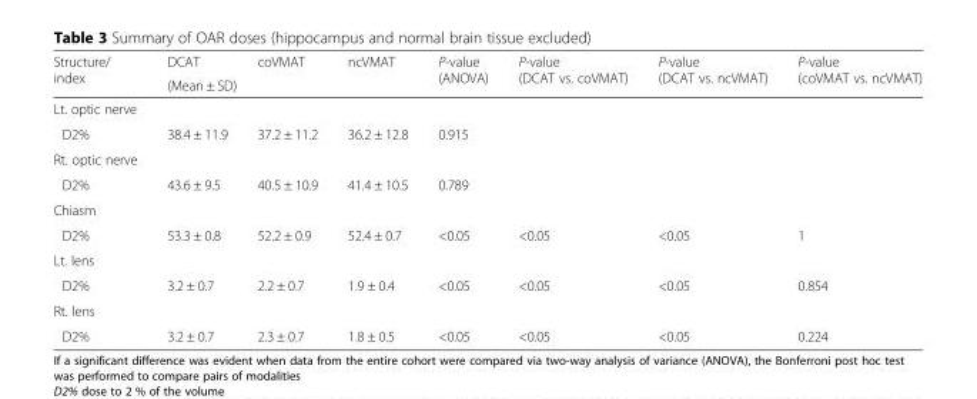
<table><thead><tr><td rowspan="2">Structure/ index</td><td>DCAT</td><td>coVMAT</td><td>ncVMAT</td><td rowspan="2">P-value (ANOVA)</td><td rowspan="2">P-value (DCAT vs. coVMAT)</td><td rowspan="2">P-value (DCAT vs. ncVMAT)</td><td rowspan="2">P-value (coVMAT vs. ncVMAT)</td></tr><tr><td colspan="3">(Mean ± SD)</td></tr></thead><tbody><tr><td colspan="8">Lt. optic nerve</td></tr><tr><td>D2%</td><td>38.4 ± 11.9</td><td>37.2 ± 11.2</td><td>36.2 ± 12.8</td><td>0.915</td><td></td><td></td><td></td></tr><tr><td colspan="8">Rt. optic nerve</td></tr><tr><td>D2%</td><td>43.6 ± 9.5</td><td>40.5 ± 10.9</td><td>41.4 ± 10.5</td><td>0.789</td><td></td><td></td><td></td></tr><tr><td colspan="8">Chiasm</td></tr><tr><td>D2%</td><td>53.3 ± 0.8</td><td>52.2 ± 0.9</td><td>52.4 ± 0.7</td><td>&lt;0.05</td><td>&lt;0.05</td><td>&lt;0.05</td><td>1</td></tr><tr><td colspan="8">Lt. lens</td></tr><tr><td>D2%</td><td>3.2 ± 0.7</td><td>2.2 ± 0.7</td><td>1.9 ± 0.4</td><td>&lt;0.05</td><td>&lt;0.05</td><td>&lt;0.05</td><td>0.854</td></tr><tr><td colspan="8">Rt. lens</td></tr><tr><td>D2%</td><td>3.2 ± 0.7</td><td>2.3 ± 0.7</td><td>1.8 ± 0.5</td><td>&lt;0.05</td><td>&lt;0.05</td><td>&lt;0.05</td><td>0.224</td></tr></tbody></table>